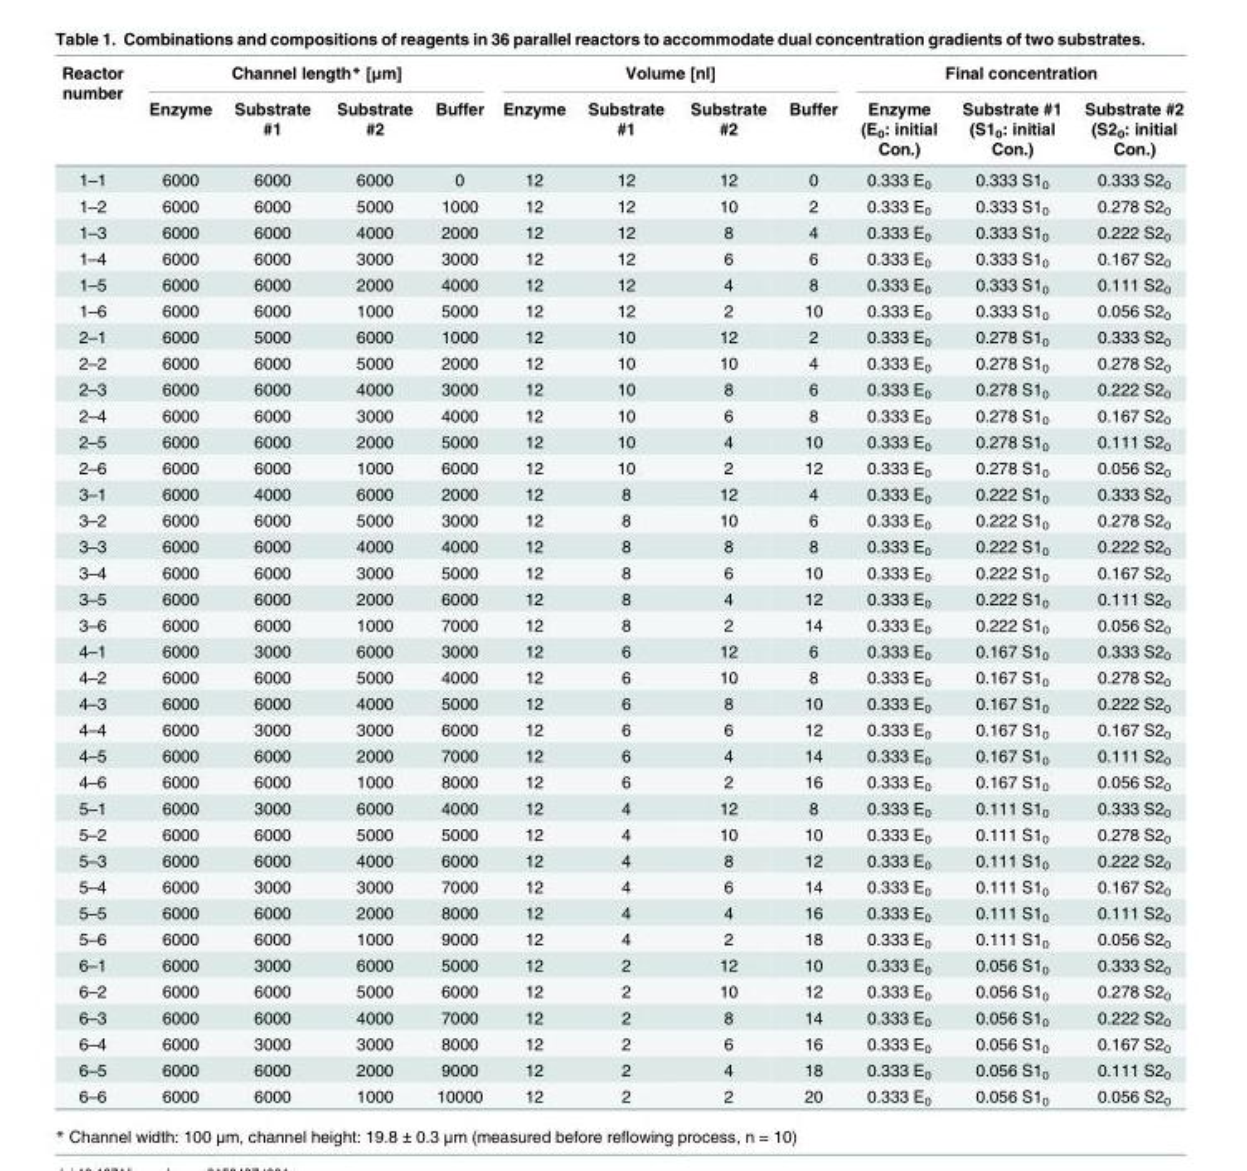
<table><thead><tr><td rowspan="2">Reactor number</td><td colspan="4">Channel length* [μm]</td><td colspan="4">Volume [nl]</td><td colspan="3">Final concentration</td></tr><tr><td>Enzyme</td><td>Substrate #1</td><td>Substrate #2</td><td>Buffer</td><td>Enzyme</td><td>Substrate #1</td><td>Substrate #2</td><td>Buffer</td><td>Enzyme (E<sub>0</sub>: initial Con.)</td><td>Substrate #1 (S1<sub>0</sub>: initial Con.)</td><td>Substrate #2 (S2<sub>0</sub>: initial Con.)</td></tr></thead><tbody><tr><td>1–1</td><td>6000</td><td>6000</td><td>6000</td><td>0</td><td>12</td><td>12</td><td>12</td><td>0</td><td>0.333 E<sub>0</sub></td><td>0.333 S1<sub>0</sub></td><td>0.333 S2<sub>0</sub></td></tr><tr><td>1–2</td><td>6000</td><td>6000</td><td>5000</td><td>1000</td><td>12</td><td>12</td><td>10</td><td>2</td><td>0.333 E<sub>0</sub></td><td>0.333 S1<sub>0</sub></td><td>0.278 S2<sub>0</sub></td></tr><tr><td>1–3</td><td>6000</td><td>6000</td><td>4000</td><td>2000</td><td>12</td><td>12</td><td>8</td><td>4</td><td>0.333 E<sub>0</sub></td><td>0.333 S1<sub>0</sub></td><td>0.222 S2<sub>0</sub></td></tr><tr><td>1–4</td><td>6000</td><td>6000</td><td>3000</td><td>3000</td><td>12</td><td>12</td><td>6</td><td>6</td><td>0.333 E<sub>0</sub></td><td>0.333 S1<sub>0</sub></td><td>0.167 S2<sub>0</sub></td></tr><tr><td>1–5</td><td>6000</td><td>6000</td><td>2000</td><td>4000</td><td>12</td><td>12</td><td>4</td><td>8</td><td>0.333 E<sub>0</sub></td><td>0.333 S1<sub>0</sub></td><td>0.111 S2<sub>0</sub></td></tr><tr><td>1–6</td><td>6000</td><td>6000</td><td>1000</td><td>5000</td><td>12</td><td>12</td><td>2</td><td>10</td><td>0.333 E<sub>0</sub></td><td>0.333 S1<sub>0</sub></td><td>0.056 S2<sub>0</sub></td></tr><tr><td>2–1</td><td>6000</td><td>5000</td><td>6000</td><td>1000</td><td>12</td><td>10</td><td>12</td><td>2</td><td>0.333 E<sub>0</sub></td><td>0.278 S1<sub>0</sub></td><td>0.333 S2<sub>0</sub></td></tr><tr><td>2–2</td><td>6000</td><td>6000</td><td>5000</td><td>2000</td><td>12</td><td>10</td><td>10</td><td>4</td><td>0.333 E<sub>0</sub></td><td>0.278 S1<sub>0</sub></td><td>0.278 S2<sub>0</sub></td></tr><tr><td>2–3</td><td>6000</td><td>6000</td><td>4000</td><td>3000</td><td>12</td><td>10</td><td>8</td><td>6</td><td>0.333 E<sub>0</sub></td><td>0.278 S1<sub>0</sub></td><td>0.222 S2<sub>0</sub></td></tr><tr><td>2–4</td><td>6000</td><td>6000</td><td>3000</td><td>4000</td><td>12</td><td>10</td><td>6</td><td>8</td><td>0.333 E<sub>0</sub></td><td>0.278 S1<sub>0</sub></td><td>0.167 S2<sub>0</sub></td></tr><tr><td>2–5</td><td>6000</td><td>6000</td><td>2000</td><td>5000</td><td>12</td><td>10</td><td>4</td><td>10</td><td>0.333 E<sub>0</sub></td><td>0.278 S1<sub>0</sub></td><td>0.111 S2<sub>0</sub></td></tr><tr><td>2–6</td><td>6000</td><td>6000</td><td>1000</td><td>6000</td><td>12</td><td>10</td><td>2</td><td>12</td><td>0.333 E<sub>0</sub></td><td>0.278 S1<sub>0</sub></td><td>0.056 S2<sub>0</sub></td></tr><tr><td>3–1</td><td>6000</td><td>4000</td><td>6000</td><td>2000</td><td>12</td><td>8</td><td>12</td><td>4</td><td>0.333 E<sub>0</sub></td><td>0.222 S1<sub>0</sub></td><td>0.333 S2<sub>0</sub></td></tr><tr><td>3–2</td><td>6000</td><td>6000</td><td>5000</td><td>3000</td><td>12</td><td>8</td><td>10</td><td>6</td><td>0.333 E<sub>0</sub></td><td>0.222 S1<sub>0</sub></td><td>0.278 S2<sub>0</sub></td></tr><tr><td>3–3</td><td>6000</td><td>6000</td><td>4000</td><td>4000</td><td>12</td><td>8</td><td>8</td><td>8</td><td>0.333 E<sub>0</sub></td><td>0.222 S1<sub>0</sub></td><td>0.222 S2<sub>0</sub></td></tr><tr><td>3–4</td><td>6000</td><td>6000</td><td>3000</td><td>5000</td><td>12</td><td>8</td><td>6</td><td>10</td><td>0.333 E<sub>0</sub></td><td>0.222 S1<sub>0</sub></td><td>0.167 S2<sub>0</sub></td></tr><tr><td>3–5</td><td>6000</td><td>6000</td><td>2000</td><td>6000</td><td>12</td><td>8</td><td>4</td><td>12</td><td>0.333 E<sub>0</sub></td><td>0.222 S1<sub>0</sub></td><td>0.111 S2<sub>0</sub></td></tr><tr><td>3–6</td><td>6000</td><td>6000</td><td>1000</td><td>7000</td><td>12</td><td>8</td><td>2</td><td>14</td><td>0.333 E<sub>0</sub></td><td>0.222 S1<sub>0</sub></td><td>0.056 S2<sub>0</sub></td></tr><tr><td>4–1</td><td>6000</td><td>3000</td><td>6000</td><td>3000</td><td>12</td><td>6</td><td>12</td><td>6</td><td>0.333 E<sub>0</sub></td><td>0.167 S1<sub>0</sub></td><td>0.333 S2<sub>0</sub></td></tr><tr><td>4–2</td><td>6000</td><td>6000</td><td>5000</td><td>4000</td><td>12</td><td>6</td><td>10</td><td>8</td><td>0.333 E<sub>0</sub></td><td>0.167 S1<sub>0</sub></td><td>0.278 S2<sub>0</sub></td></tr><tr><td>4–3</td><td>6000</td><td>6000</td><td>4000</td><td>5000</td><td>12</td><td>6</td><td>8</td><td>10</td><td>0.333 E<sub>0</sub></td><td>0.167 S1<sub>0</sub></td><td>0.222 S2<sub>0</sub></td></tr><tr><td>4–4</td><td>6000</td><td>3000</td><td>3000</td><td>6000</td><td>12</td><td>6</td><td>6</td><td>12</td><td>0.333 E<sub>0</sub></td><td>0.167 S1<sub>0</sub></td><td>0.167 S2<sub>0</sub></td></tr><tr><td>4–5</td><td>6000</td><td>6000</td><td>2000</td><td>7000</td><td>12</td><td>6</td><td>4</td><td>14</td><td>0.333 E<sub>0</sub></td><td>0.167 S1<sub>0</sub></td><td>0.111 S2<sub>0</sub></td></tr><tr><td>4–6</td><td>6000</td><td>6000</td><td>1000</td><td>8000</td><td>12</td><td>6</td><td>2</td><td>16</td><td>0.333 E<sub>0</sub></td><td>0.167 S1<sub>0</sub></td><td>0.056 S2<sub>0</sub></td></tr><tr><td>5–1</td><td>6000</td><td>3000</td><td>6000</td><td>4000</td><td>12</td><td>4</td><td>12</td><td>8</td><td>0.333 E<sub>0</sub></td><td>0.111 S1<sub>0</sub></td><td>0.333 S2<sub>0</sub></td></tr><tr><td>5–2</td><td>6000</td><td>6000</td><td>5000</td><td>5000</td><td>12</td><td>4</td><td>10</td><td>10</td><td>0.333 E<sub>0</sub></td><td>0.111 S1<sub>0</sub></td><td>0.278 S2<sub>0</sub></td></tr><tr><td>5–3</td><td>6000</td><td>6000</td><td>4000</td><td>6000</td><td>12</td><td>4</td><td>8</td><td>12</td><td>0.333 E<sub>0</sub></td><td>0.111 S1<sub>0</sub></td><td>0.222 S2<sub>0</sub></td></tr><tr><td>5–4</td><td>6000</td><td>3000</td><td>3000</td><td>7000</td><td>12</td><td>4</td><td>6</td><td>14</td><td>0.333 E<sub>0</sub></td><td>0.111 S1<sub>0</sub></td><td>0.167 S2<sub>0</sub></td></tr><tr><td>5–5</td><td>6000</td><td>6000</td><td>2000</td><td>8000</td><td>12</td><td>4</td><td>4</td><td>16</td><td>0.333 E<sub>0</sub></td><td>0.111 S1<sub>0</sub></td><td>0.111 S2<sub>0</sub></td></tr><tr><td>5–6</td><td>6000</td><td>6000</td><td>1000</td><td>9000</td><td>12</td><td>4</td><td>2</td><td>18</td><td>0.333 E<sub>0</sub></td><td>0.111 S1<sub>0</sub></td><td>0.056 S2<sub>0</sub></td></tr><tr><td>6–1</td><td>6000</td><td>3000</td><td>6000</td><td>5000</td><td>12</td><td>2</td><td>12</td><td>10</td><td>0.333 E<sub>0</sub></td><td>0.056 S1<sub>0</sub></td><td>0.333 S2<sub>0</sub></td></tr><tr><td>6–2</td><td>6000</td><td>6000</td><td>5000</td><td>6000</td><td>12</td><td>2</td><td>10</td><td>12</td><td>0.333 E<sub>0</sub></td><td>0.056 S1<sub>0</sub></td><td>0.278 S2<sub>0</sub></td></tr><tr><td>6–3</td><td>6000</td><td>6000</td><td>4000</td><td>7000</td><td>12</td><td>2</td><td>8</td><td>14</td><td>0.333 E<sub>0</sub></td><td>0.056 S1<sub>0</sub></td><td>0.222 S2<sub>0</sub></td></tr><tr><td>6–4</td><td>6000</td><td>3000</td><td>3000</td><td>8000</td><td>12</td><td>2</td><td>6</td><td>16</td><td>0.333 E<sub>0</sub></td><td>0.056 S1<sub>0</sub></td><td>0.167 S2<sub>0</sub></td></tr><tr><td>6–5</td><td>6000</td><td>6000</td><td>2000</td><td>9000</td><td>12</td><td>2</td><td>4</td><td>18</td><td>0.333 E<sub>0</sub></td><td>0.056 S1<sub>0</sub></td><td>0.111 S2<sub>0</sub></td></tr><tr><td>6–6</td><td>6000</td><td>6000</td><td>1000</td><td>10000</td><td>12</td><td>2</td><td>2</td><td>20</td><td>0.333 E<sub>0</sub></td><td>0.056 S1<sub>0</sub></td><td>0.056 S2<sub>0</sub></td></tr></tbody></table>